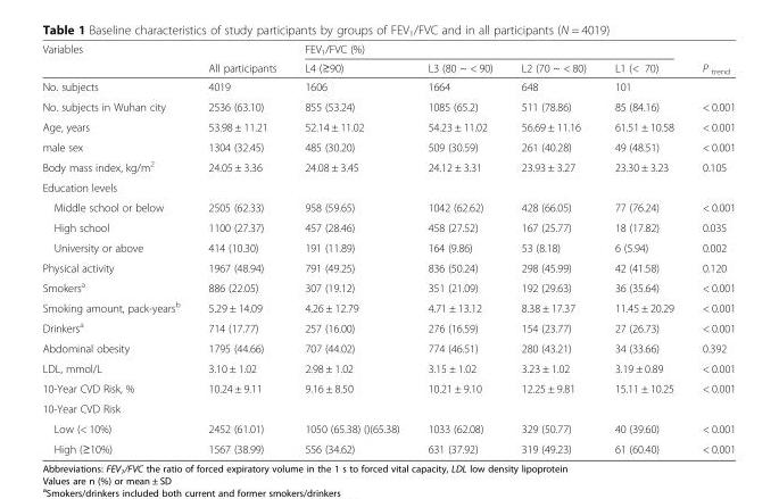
<table><thead><tr><td rowspan="2">Variables</td><td rowspan="2">All participants</td><td colspan="4">FEV<sub>1</sub>/FVC (%)</td><td rowspan="2">P <sub>trend</sub></td></tr><tr><td>L4 (≥90)</td><td>L3 (80 ~ &lt; 90)</td><td>L2 (70 ~ &lt; 80)</td><td>L1 (&lt; 70)</td></tr></thead><tbody><tr><td>No. subjects</td><td>4019</td><td>1606</td><td>1664</td><td>648</td><td>101</td><td></td></tr><tr><td>No. subjects in Wuhan city</td><td>2536 (63.10)</td><td>855 (53.24)</td><td>1085 (65.2)</td><td>511 (78.86)</td><td>85 (84.16)</td><td>&lt; 0.001</td></tr><tr><td>Age, years</td><td>53.98 ± 11.21</td><td>52.14 ± 11.02</td><td>54.23 ± 11.02</td><td>56.69 ± 11.16</td><td>61.51 ± 10.58</td><td>&lt; 0.001</td></tr><tr><td>male sex</td><td>1304 (32.45)</td><td>485 (30.20)</td><td>509 (30.59)</td><td>261 (40.28)</td><td>49 (48.51)</td><td>&lt; 0.001</td></tr><tr><td>Body mass index, kg/m<sup>2</sup></td><td>24.05 ± 3.36</td><td>24.08 ± 3.45</td><td>24.12 ± 3.31</td><td>23.93 ± 3.27</td><td>23.30 ± 3.23</td><td>0.105</td></tr><tr><td colspan="7">Education levels</td></tr><tr><td>Middle school or below</td><td>2505 (62.33)</td><td>958 (59.65)</td><td>1042 (62.62)</td><td>428 (66.05)</td><td>77 (76.24)</td><td>&lt; 0.001</td></tr><tr><td>High school</td><td>1100 (27.37)</td><td>457 (28.46)</td><td>458 (27.52)</td><td>167 (25.77)</td><td>18 (17.82)</td><td>0.035</td></tr><tr><td>University or above</td><td>414 (10.30)</td><td>191 (11.89)</td><td>164 (9.86)</td><td>53 (8.18)</td><td>6 (5.94)</td><td>0.002</td></tr><tr><td>Physical activity</td><td>1967 (48.94)</td><td>791 (49.25)</td><td>836 (50.24)</td><td>298 (45.99)</td><td>42 (41.58)</td><td>0.120</td></tr><tr><td>Smokers<sup>a</sup></td><td>886 (22.05)</td><td>307 (19.12)</td><td>351 (21.09)</td><td>192 (29.63)</td><td>36 (35.64)</td><td>&lt; 0.001</td></tr><tr><td>Smoking amount, pack-years<sup>b</sup></td><td>5.29 ± 14.09</td><td>4.26 ± 12.79</td><td>4.71 ± 13.12</td><td>8.38 ± 17.37</td><td>11.45 ± 20.29</td><td>&lt; 0.001</td></tr><tr><td>Drinkers<sup>a</sup></td><td>714 (17.77)</td><td>257 (16.00)</td><td>276 (16.59)</td><td>154 (23.77)</td><td>27 (26.73)</td><td>&lt; 0.001</td></tr><tr><td>Abdominal obesity</td><td>1795 (44.66)</td><td>707 (44.02)</td><td>774 (46.51)</td><td>280 (43.21)</td><td>34 (33.66)</td><td>0.392</td></tr><tr><td>LDL, mmol/L</td><td>3.10 ± 1.02</td><td>2.98 ± 1.02</td><td>3.15 ± 1.02</td><td>3.23 ± 1.02</td><td>3.19 ± 0.89</td><td>&lt; 0.001</td></tr><tr><td>10-Year CVD Risk, %</td><td>10.24 ± 9.11</td><td>9.16 ± 8.50</td><td>10.21 ± 9.10</td><td>12.25 ± 9.81</td><td>15.11 ± 10.25</td><td>&lt; 0.001</td></tr><tr><td colspan="7">10-Year CVD Risk</td></tr><tr><td>Low (&lt; 10%)</td><td>2452 (61.01)</td><td>1050 (65.38) ()(65.38)</td><td>1033 (62.08)</td><td>329 (50.77)</td><td>40 (39.60)</td><td>&lt; 0.001</td></tr><tr><td>High (≥10%)</td><td>1567 (38.99)</td><td>556 (34.62)</td><td>631 (37.92)</td><td>319 (49.23)</td><td>61 (60.40)</td><td>&lt; 0.001</td></tr></tbody></table>